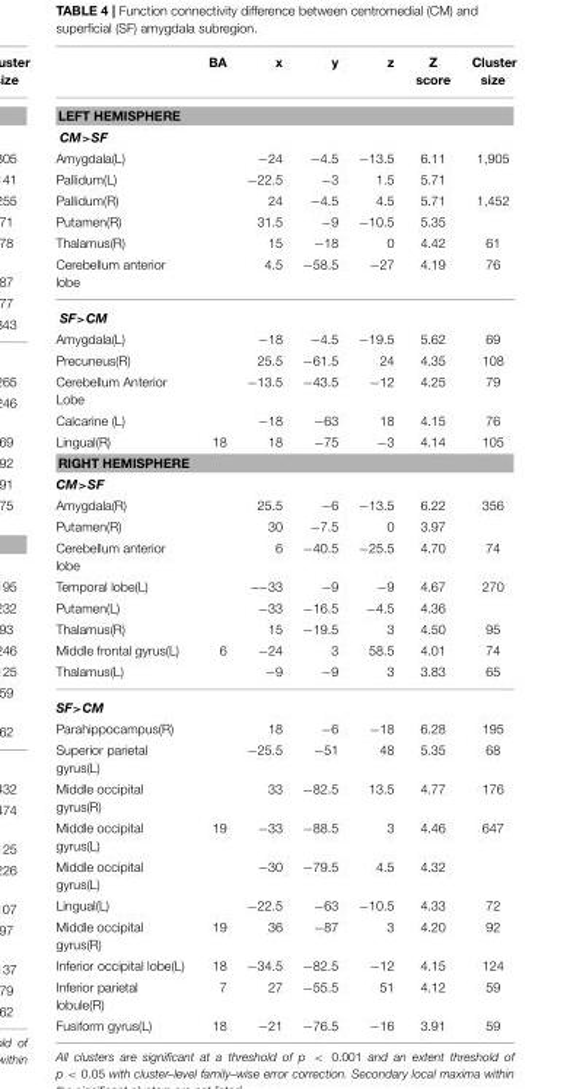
<table><thead><tr><td></td><td>BA</td><td>x</td><td>y</td><td>z</td><td>Z score</td><td>Cluster size</td></tr></thead><tbody><tr><td colspan="7">LEFT HEMISPHERE</td></tr><tr><td colspan="7">CM&gt;SF</td></tr><tr><td>Amygdala(L)</td><td></td><td>−24</td><td>−4.5</td><td>−13.5</td><td>6.11</td><td>1,905</td></tr><tr><td>Pallidum(L)</td><td></td><td>−22.5</td><td>−3</td><td>1.5</td><td>5.71</td><td></td></tr><tr><td>Pallidum(R)</td><td></td><td>24</td><td>−4.5</td><td>4.5</td><td>5.71</td><td>1,452</td></tr><tr><td>Putamen(R)</td><td></td><td>31.5</td><td>−9</td><td>−10.5</td><td>5.35</td><td></td></tr><tr><td>Thalamus(R)</td><td></td><td>15</td><td>−18</td><td>0</td><td>4.42</td><td>61</td></tr><tr><td>Cerebellum anterior lobe</td><td></td><td>4.5</td><td>−58.5</td><td>−27</td><td>4.19</td><td>76</td></tr><tr><td colspan="7">SF&gt;CM</td></tr><tr><td>Amygdala(L)</td><td></td><td>−18</td><td>−4.5</td><td>−19.5</td><td>5.62</td><td>69</td></tr><tr><td>Precuneus(R)</td><td></td><td>25.5</td><td>−61.5</td><td>24</td><td>4.35</td><td>108</td></tr><tr><td>Cerebellum Anterior Lobe</td><td></td><td>−13.5</td><td>−43.5</td><td>−12</td><td>4.25</td><td>79</td></tr><tr><td>Calcarine (L)</td><td></td><td>−18</td><td>−63</td><td>18</td><td>4.15</td><td>76</td></tr><tr><td>Lingual(R)</td><td>18</td><td>18</td><td>−75</td><td>−3</td><td>4.14</td><td>105</td></tr><tr><td colspan="7">RIGHT HEMISPHERE</td></tr><tr><td colspan="7">CM&gt;SF</td></tr><tr><td>Amygdala(R)</td><td></td><td>25.5</td><td>−6</td><td>−13.5</td><td>6.22</td><td>356</td></tr><tr><td>Putamen(R)</td><td></td><td>30</td><td>−7.5</td><td>0</td><td>3.97</td><td></td></tr><tr><td>Cerebellum anterior lobe</td><td></td><td>6</td><td>−40.5</td><td>−25.5</td><td>4.70</td><td>74</td></tr><tr><td>Temporal lobe(L)</td><td></td><td>–−33</td><td>−9</td><td>−9</td><td>4.67</td><td>270</td></tr><tr><td>Putamen(L)</td><td></td><td>−33</td><td>−16.5</td><td>−4.5</td><td>4.36</td><td></td></tr><tr><td>Thalamus(R)</td><td></td><td>15</td><td>−19.5</td><td>3</td><td>4.50</td><td>95</td></tr><tr><td>Middle frontal gyrus(L)</td><td>6</td><td>−24</td><td>3</td><td>58.5</td><td>4.01</td><td>74</td></tr><tr><td>Thalamus(L)</td><td></td><td>−9</td><td>−9</td><td>3</td><td>3.83</td><td>65</td></tr><tr><td colspan="7">SF&gt;CM</td></tr><tr><td>Parahippocampus(R)</td><td></td><td>18</td><td>−6</td><td>−18</td><td>6.28</td><td>195</td></tr><tr><td>Superior parietal gyrus(L)</td><td></td><td>−25.5</td><td>−51</td><td>48</td><td>5.35</td><td>68</td></tr><tr><td>Middle occipital gyrus(R)</td><td></td><td>33</td><td>−82.5</td><td>13.5</td><td>4.77</td><td>176</td></tr><tr><td>Middle occipital gyrus(L)</td><td>19</td><td>−33</td><td>−88.5</td><td>3</td><td>4.46</td><td>647</td></tr><tr><td>Middle occipital gyrus(L)</td><td></td><td>−30</td><td>−79.5</td><td>4.5</td><td>4.32</td><td></td></tr><tr><td>Lingual(L)</td><td></td><td>−22.5</td><td>−63</td><td>−10.5</td><td>4.33</td><td>72</td></tr><tr><td>Middle occipital gyrus(R)</td><td>19</td><td>36</td><td>−87</td><td>3</td><td>4.20</td><td>92</td></tr><tr><td>Inferior occipital lobe(L)</td><td>18</td><td>−34.5</td><td>−82.5</td><td>−12</td><td>4.15</td><td>124</td></tr><tr><td>Inferior parietal lobule(R)</td><td>7</td><td>27</td><td>−55.5</td><td>51</td><td>4.12</td><td>59</td></tr><tr><td>Fusiform gyrus(L)</td><td>18</td><td>−21</td><td>−76.5</td><td>−16</td><td>3.91</td><td>59</td></tr></tbody></table>